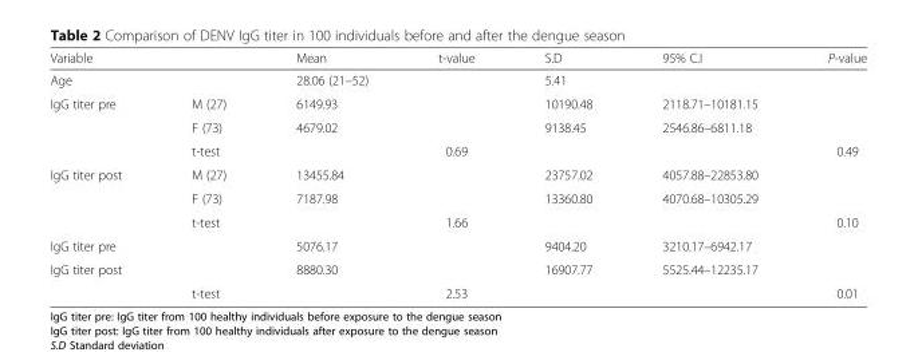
<table><thead><tr><td>Variable</td><td></td><td>Mean</td><td>t-value</td><td>S.D</td><td>95% C.I</td><td>P-value</td></tr></thead><tbody><tr><td>Age</td><td></td><td>28.06 (21–52)</td><td></td><td>5.41</td><td></td><td></td></tr><tr><td rowspan="3">IgG titer pre</td><td>M (27)</td><td>6149.93</td><td></td><td>10190.48</td><td>2118.71–10181.15</td><td></td></tr><tr><td>F (73)</td><td>4679.02</td><td></td><td>9138.45</td><td>2546.86–6811.18</td><td></td></tr><tr><td>t-test</td><td></td><td>0.69</td><td></td><td></td><td>0.49</td></tr><tr><td rowspan="3">IgG titer post</td><td>M (27)</td><td>13455.84</td><td></td><td>23757.02</td><td>4057.88–22853.80</td><td></td></tr><tr><td>F (73)</td><td>7187.98</td><td></td><td>13360.80</td><td>4070.68–10305.29</td><td></td></tr><tr><td>t-test</td><td></td><td>1.66</td><td></td><td></td><td>0.10</td></tr><tr><td>IgG titer pre</td><td></td><td>5076.17</td><td></td><td>9404.20</td><td>3210.17–6942.17</td><td></td></tr><tr><td rowspan="2">IgG titer post</td><td></td><td>8880.30</td><td></td><td>16907.77</td><td>5525.44–12235.17</td><td></td></tr><tr><td>t-test</td><td></td><td>2.53</td><td></td><td></td><td>0.01</td></tr></tbody></table>